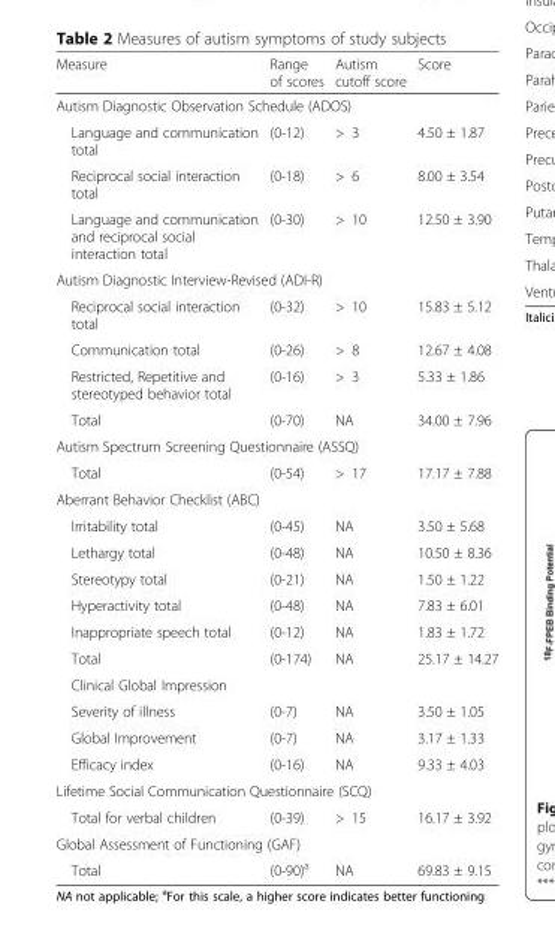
<table><thead><tr><td>Measure</td><td>Range of scores</td><td>Autism cutoff score</td><td>Score</td></tr></thead><tbody><tr><td colspan="4">Autism Diagnostic Observation Schedule (ADOS)</td></tr><tr><td>Language and communication total</td><td>(0-12)</td><td>&gt; 3</td><td>4.50 ± 1.87</td></tr><tr><td>Reciprocal social interaction total</td><td>(0-18)</td><td>&gt; 6</td><td>8.00 ± 3.54</td></tr><tr><td>Language and communication and reciprocal social interaction total</td><td>(0-30)</td><td>&gt; 10</td><td>12.50 ± 3.90</td></tr><tr><td colspan="4">Autism Diagnostic Interview-Revised (ADI-R)</td></tr><tr><td>Reciprocal social interaction total</td><td>(0-32)</td><td>&gt; 10</td><td>15.83 ± 5.12</td></tr><tr><td>Communication total</td><td>(0-26)</td><td>&gt; 8</td><td>12.67 ± 4.08</td></tr><tr><td>Restricted, Repetitive and stereotyped behavior total</td><td>(0-16)</td><td>&gt; 3</td><td>5.33 ± 1.86</td></tr><tr><td>Total</td><td>(0-70)</td><td>NA</td><td>34.00 ± 7.96</td></tr><tr><td colspan="4">Autism Spectrum Screening Questionnaire (ASSQ)</td></tr><tr><td>Total</td><td>(0-54)</td><td>&gt; 17</td><td>17.17 ± 7.88</td></tr><tr><td colspan="4">Aberrant Behavior Checklist (ABC)</td></tr><tr><td>Irritability total</td><td>(0-45)</td><td>NA</td><td>3.50 ± 5.68</td></tr><tr><td>Lethargy total</td><td>(0-48)</td><td>NA</td><td>10.50 ± 8.36</td></tr><tr><td>Stereotypy total</td><td>(0-21)</td><td>NA</td><td>1.50 ± 1.22</td></tr><tr><td>Hyperactivity total</td><td>(0-48)</td><td>NA</td><td>7.83 ± 6.01</td></tr><tr><td>Inappropriate speech total</td><td>(0-12)</td><td>NA</td><td>1.83 ± 1.72</td></tr><tr><td>Total</td><td>(0-174)</td><td>NA</td><td>25.17 ± 14.27</td></tr><tr><td colspan="4">Clinical Global Impression</td></tr><tr><td>Severity of illness</td><td>(0-7)</td><td>NA</td><td>3.50 ± 1.05</td></tr><tr><td>Global Improvement</td><td>(0-7)</td><td>NA</td><td>3.17 ± 1.33</td></tr><tr><td>Efficacy index</td><td>(0-16)</td><td>NA</td><td>9.33 ± 4.03</td></tr><tr><td colspan="4">Lifetime Social Communication Questionnaire (SCQ)</td></tr><tr><td>Total for verbal children</td><td>(0-39)</td><td>&gt; 15</td><td>16.17 ± 3.92</td></tr><tr><td colspan="4">Global Assessment of Functioning (GAF)</td></tr><tr><td>Total</td><td>(0-90)<sup>a</sup></td><td>NA</td><td>69.83 ± 9.15</td></tr></tbody></table>